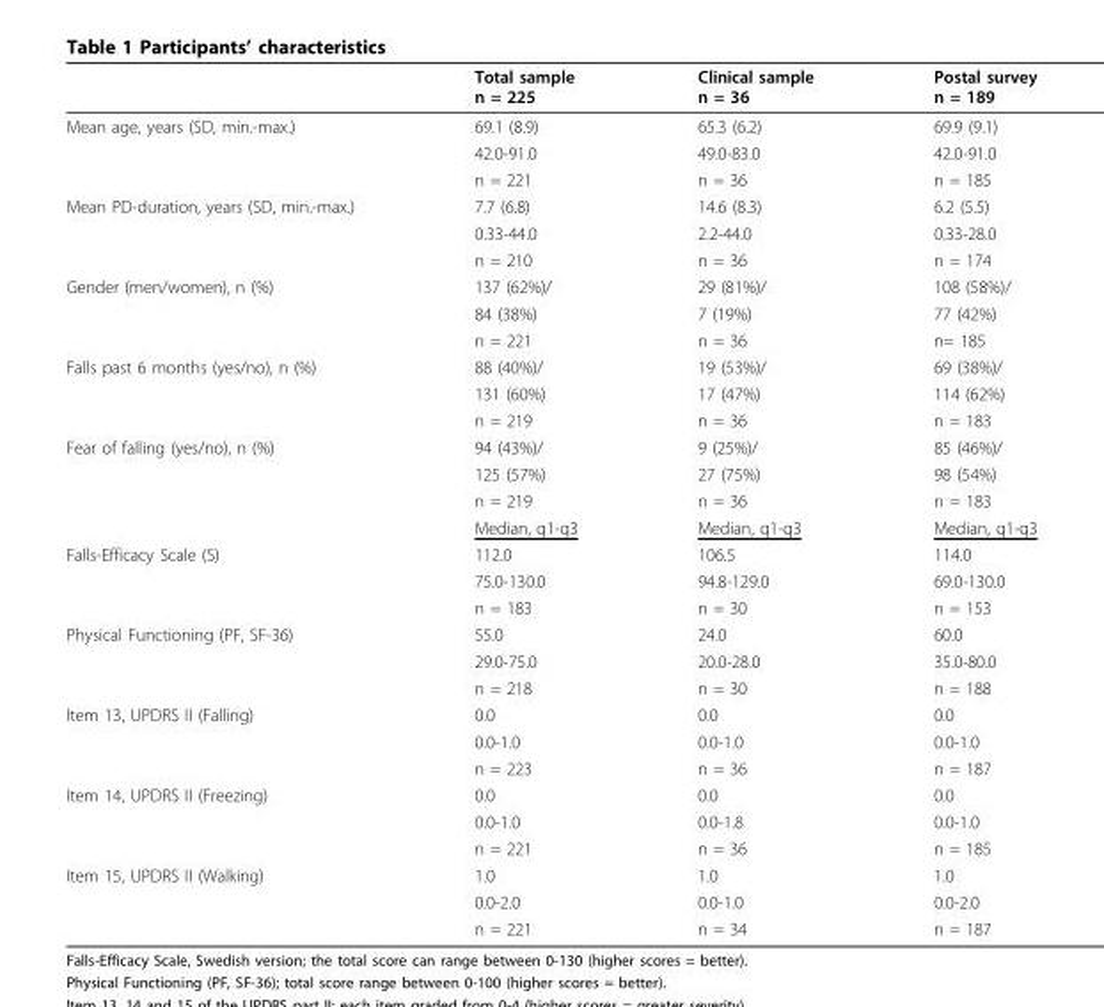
<table><thead><tr><td></td><td>Total sample n = 225</td><td>Clinical sample n = 36</td><td>Postal survey n = 189</td></tr></thead><tbody><tr><td rowspan="3">Mean age, years (SD, min.-max.)</td><td>69.1 (8.9)</td><td>65.3 (6.2)</td><td>69.9 (9.1)</td></tr><tr><td>42.0-91.0</td><td>49.0-83.0</td><td>42.0-91.0</td></tr><tr><td>n = 221</td><td>n = 36</td><td>n = 185</td></tr><tr><td rowspan="3">Mean PD-duration, years (SD, min.-max.)</td><td>7.7 (6.8)</td><td>14.6 (8.3)</td><td>6.2 (5.5)</td></tr><tr><td>0.33-44.0</td><td>2.2-44.0</td><td>0.33-28.0</td></tr><tr><td>n = 210</td><td>n = 36</td><td>n = 174</td></tr><tr><td rowspan="3">Gender (men/women), n (%)</td><td>137 (62%)/</td><td>29 (81%)/</td><td>108 (58%)/</td></tr><tr><td>84 (38%)</td><td>7 (19%)</td><td>77 (42%)</td></tr><tr><td>n = 221</td><td>n = 36</td><td>n= 185</td></tr><tr><td rowspan="3">Falls past 6 months (yes/no), n (%)</td><td>88 (40%)/</td><td>19 (53%)/</td><td>69 (38%)/</td></tr><tr><td>131 (60%)</td><td>17 (47%)</td><td>114 (62%)</td></tr><tr><td>n = 219</td><td>n = 36</td><td>n = 183</td></tr><tr><td rowspan="4">Fear of falling (yes/no), n (%)</td><td>94 (43%)/</td><td>9 (25%)/</td><td>85 (46%)/</td></tr><tr><td>125 (57%)</td><td>27 (75%)</td><td>98 (54%)</td></tr><tr><td>n = 219</td><td>n = 36</td><td>n = 183</td></tr><tr><td>Median, q1-q3</td><td>Median, q1-q3</td><td>Median, q1-q3</td></tr><tr><td rowspan="3">Falls-Efficacy Scale (S)</td><td>112.0</td><td>106.5</td><td>114.0</td></tr><tr><td>75.0-130.0</td><td>94.8-129.0</td><td>69.0-130.0</td></tr><tr><td>n = 183</td><td>n = 30</td><td>n = 153</td></tr><tr><td rowspan="3">Physical Functioning (PF, SF-36)</td><td>55.0</td><td>24.0</td><td>60.0</td></tr><tr><td>29.0-75.0</td><td>20.0-28.0</td><td>35.0-80.0</td></tr><tr><td>n = 218</td><td>n = 30</td><td>n = 188</td></tr><tr><td rowspan="3">Item 13, UPDRS II (Falling)</td><td>0.0</td><td>0.0</td><td>0.0</td></tr><tr><td>0.0-1.0</td><td>0.0-1.0</td><td>0.0-1.0</td></tr><tr><td>n = 223</td><td>n = 36</td><td>n = 187</td></tr><tr><td rowspan="3">Item 14, UPDRS II (Freezing)</td><td>0.0</td><td>0.0</td><td>0.0</td></tr><tr><td>0.0-1.0</td><td>0.0-1.8</td><td>0.0-1.0</td></tr><tr><td>n = 221</td><td>n = 36</td><td>n = 185</td></tr><tr><td rowspan="3">Item 15, UPDRS II (Walking)</td><td>1.0</td><td>1.0</td><td>1.0</td></tr><tr><td>0.0-2.0</td><td>0.0-1.0</td><td>0.0-2.0</td></tr><tr><td>n = 221</td><td>n = 34</td><td>n = 187</td></tr></tbody></table>